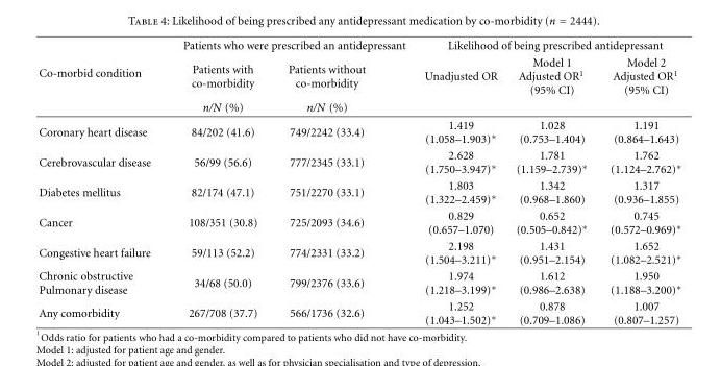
<table><thead><tr><td rowspan="3">Co-morbid condition</td><td colspan="2">Patients who were prescribed an antidepressant</td><td colspan="3">Likelihood of being prescribed antidepressant</td></tr><tr><td rowspan="2">Patients with co-morbidity n/N (%)</td><td rowspan="2">Patients without co-morbidity n/N (%)</td><td rowspan="2">Unadjusted OR</td><td rowspan="2">Model 1 Adjusted OR<sup>1</sup> (95% CI)</td><td rowspan="2">Model 2 Adjusted OR<sup>1</sup> (95% CI)</td></tr><tr></tr></thead><tbody><tr><td>Coronary heart disease</td><td>84/202 (41.6)</td><td>749/2242 (33.4)</td><td>1.419 (1.058–1.903)∗</td><td>1.028 (0.753–1.404)</td><td>1.191 (0.864–1.643)</td></tr><tr><td>Cerebrovascular disease</td><td>56/99 (56.6)</td><td>777/2345 (33.1)</td><td>2.628 (1.750–3.947)∗</td><td>1.781 (1.159–2.739)∗</td><td>1.762 (1.124–2.762)∗</td></tr><tr><td>Diabetes mellitus</td><td>82/174 (47.1)</td><td>751/2270 (33.1)</td><td>1.803 (1.322–2.459)∗</td><td>1.342 (0.968–1.860)</td><td>1.317 (0.936–1.855)</td></tr><tr><td>Cancer</td><td>108/351 (30.8)</td><td>725/2093 (34.6)</td><td>0.829 (0.657–1.070)</td><td>0.652 (0.505–0.842)∗</td><td>0.745 (0.572–0.969)∗</td></tr><tr><td>Congestive heart failure</td><td>59/113 (52.2)</td><td>774/2331 (33.2)</td><td>2.198 (1.504–3.211)∗</td><td>1.431 (0.951–2.154)</td><td>1.652 (1.082–2.521)∗</td></tr><tr><td>Chronic obstructive Pulmonary disease</td><td>34/68 (50.0)</td><td>799/2376 (33.6)</td><td>1.974 (1.218–3.199)∗</td><td>1.612 (0.986–2.638)</td><td>1.950 (1.188–3.200)∗</td></tr><tr><td>Any comorbidity</td><td>267/708 (37.7)</td><td>566/1736 (32.6)</td><td>1.252 (1.043–1.502)∗</td><td>0.878 (0.709–1.086)</td><td>1.007 (0.807–1.257)</td></tr></tbody></table>